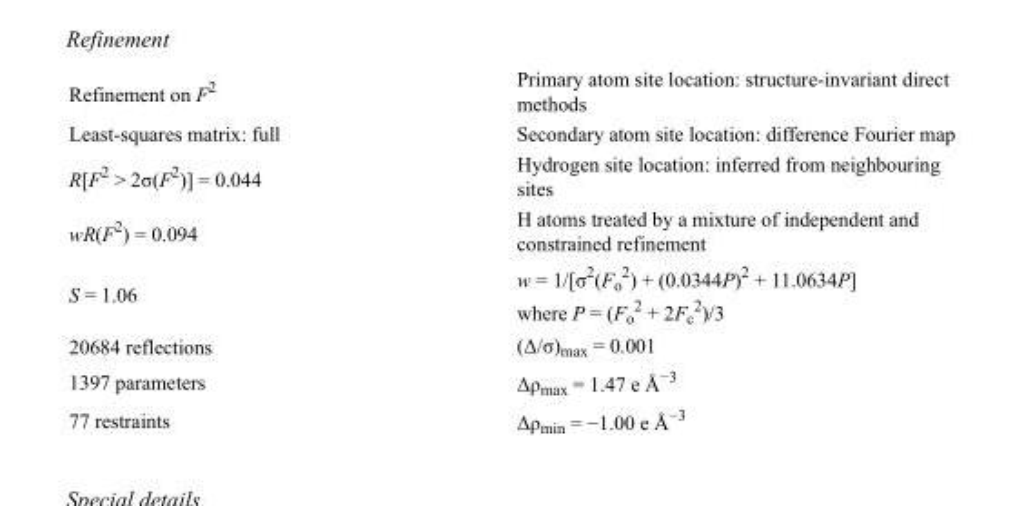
<table><tbody><tr><td>Refinement on F<sup>2</sup></td><td>Primary atom site location: structure-invariant direct methods</td></tr><tr><td>Least-squares matrix: full</td><td>Secondary atom site location: difference Fourier map</td></tr><tr><td>R[F<sup>2</sup> &gt; 2σ(F<sup>2</sup>)] = 0.044</td><td>Hydrogen site location: inferred from neighbouring sites</td></tr><tr><td>wR(F<sup>2</sup>) = 0.094</td><td>H atoms treated by a mixture of independent and constrained refinement</td></tr><tr><td>S = 1.06</td><td>w = 1/[σ<sup>2</sup>(F<sub>o</sub> <sup>2</sup>) + (0.0344P)<sup>2</sup> + 11.0634P] where P = (F<sub>o</sub> <sup>2</sup> + 2F<sub>c</sub> <sup>2</sup>)/3</td></tr><tr><td>20684 reflections</td><td>(Δ/σ)<sub>max</sub> = 0.001</td></tr><tr><td>1397 parameters</td><td>Δρ<sub>max</sub> = 1.47 e Å<sup>−3</sup></td></tr><tr><td>77 restraints</td><td>Δρ<sub>min</sub> = −1.00 e Å<sup>−3</sup></td></tr></tbody></table>